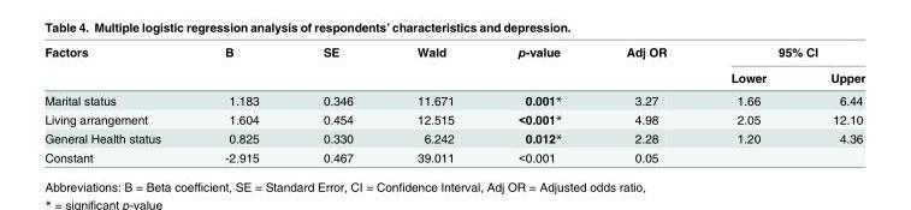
<table><thead><tr><td rowspan="2">Factors</td><td rowspan="2">B</td><td rowspan="2">SE</td><td rowspan="2">Wald</td><td rowspan="2">p-value</td><td rowspan="2">Adj OR</td><td colspan="2">95% CI</td></tr><tr><td>Lower</td><td>Upper</td></tr></thead><tbody><tr><td>Marital status</td><td>1.183</td><td>0.346</td><td>11.671</td><td>0.001*</td><td>3.27</td><td>1.66</td><td>6.44</td></tr><tr><td>Living arrangement</td><td>1.604</td><td>0.454</td><td>12.515</td><td>&lt;0.001*</td><td>4.98</td><td>2.05</td><td>12.10</td></tr><tr><td>General Health status</td><td>0.825</td><td>0.330</td><td>6.242</td><td>0.012*</td><td>2.28</td><td>1.20</td><td>4.36</td></tr><tr><td>Constant</td><td>-2.915</td><td>0.467</td><td>39.011</td><td>&lt;0.001</td><td>0.05</td><td></td><td></td></tr></tbody></table>